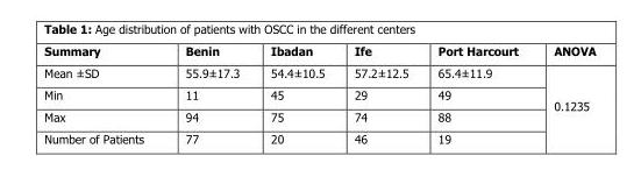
<table><thead><tr><td>Summary</td><td>Benin</td><td>Ibadan</td><td>Ife</td><td>Port Harcourt</td><td>ANOVA</td></tr></thead><tbody><tr><td>Mean ±SD</td><td>55.9±17.3</td><td>54.4±10.5</td><td>57.2±12.5</td><td>65.4±11.9</td><td rowspan="4">0.1235</td></tr><tr><td>Min</td><td>11</td><td>45</td><td>29</td><td>49</td></tr><tr><td>Max</td><td>94</td><td>75</td><td>74</td><td>88</td></tr><tr><td>Number of Patients</td><td>77</td><td>20</td><td>46</td><td>19</td></tr></tbody></table>